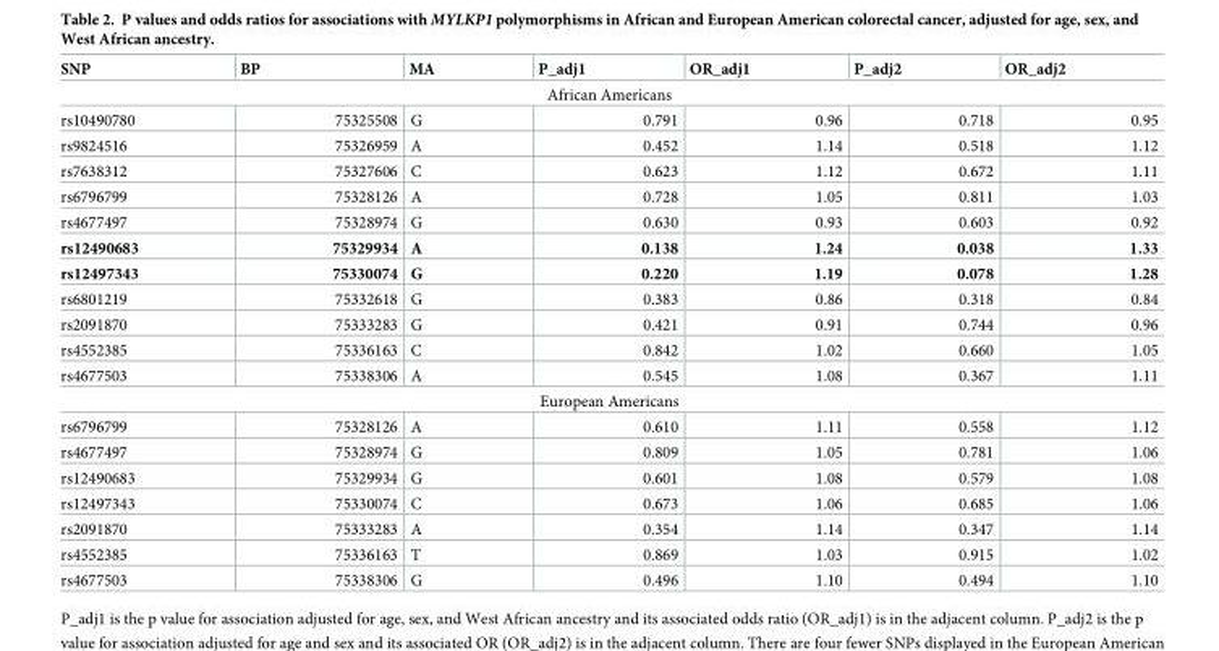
<table><thead><tr><td>SNP</td><td>BP</td><td>MA</td><td>P_adj1</td><td>OR_adj1</td><td>P_adj2</td><td>OR_adj2</td></tr></thead><tbody><tr><td colspan="7">African Americans</td></tr><tr><td>rs10490780</td><td>75325508</td><td>G</td><td>0.791</td><td>0.96</td><td>0.718</td><td>0.95</td></tr><tr><td>rs9824516</td><td>75326959</td><td>A</td><td>0.452</td><td>1.14</td><td>0.518</td><td>1.12</td></tr><tr><td>rs7638312</td><td>75327606</td><td>C</td><td>0.623</td><td>1.12</td><td>0.672</td><td>1.11</td></tr><tr><td>rs6796799</td><td>75328126</td><td>A</td><td>0.728</td><td>1.05</td><td>0.811</td><td>1.03</td></tr><tr><td>rs4677497</td><td>75328974</td><td>G</td><td>0.630</td><td>0.93</td><td>0.603</td><td>0.92</td></tr><tr><td>rs12490683</td><td>75329934</td><td>A</td><td>0.138</td><td>1.24</td><td>0.038</td><td>1.33</td></tr><tr><td>rs12497343</td><td>75330074</td><td>G</td><td>0.220</td><td>1.19</td><td>0.078</td><td>1.28</td></tr><tr><td>rs6801219</td><td>75332618</td><td>G</td><td>0.383</td><td>0.86</td><td>0.318</td><td>0.84</td></tr><tr><td>rs2091870</td><td>75333283</td><td>G</td><td>0.421</td><td>0.91</td><td>0.744</td><td>0.96</td></tr><tr><td>rs4552385</td><td>75336163</td><td>C</td><td>0.842</td><td>1.02</td><td>0.660</td><td>1.05</td></tr><tr><td>rs4677503</td><td>75338306</td><td>A</td><td>0.545</td><td>1.08</td><td>0.367</td><td>1.11</td></tr><tr><td colspan="7">European Americans</td></tr><tr><td>rs6796799</td><td>75328126</td><td>A</td><td>0.610</td><td>1.11</td><td>0.558</td><td>1.12</td></tr><tr><td>rs4677497</td><td>75328974</td><td>G</td><td>0.809</td><td>1.05</td><td>0.781</td><td>1.06</td></tr><tr><td>rs12490683</td><td>75329934</td><td>G</td><td>0.601</td><td>1.08</td><td>0.579</td><td>1.08</td></tr><tr><td>rs12497343</td><td>75330074</td><td>C</td><td>0.673</td><td>1.06</td><td>0.685</td><td>1.06</td></tr><tr><td>rs2091870</td><td>75333283</td><td>A</td><td>0.354</td><td>1.14</td><td>0.347</td><td>1.14</td></tr><tr><td>rs4552385</td><td>75336163</td><td>T</td><td>0.869</td><td>1.03</td><td>0.915</td><td>1.02</td></tr><tr><td>rs4677503</td><td>75338306</td><td>G</td><td>0.496</td><td>1.10</td><td>0.494</td><td>1.10</td></tr></tbody></table>